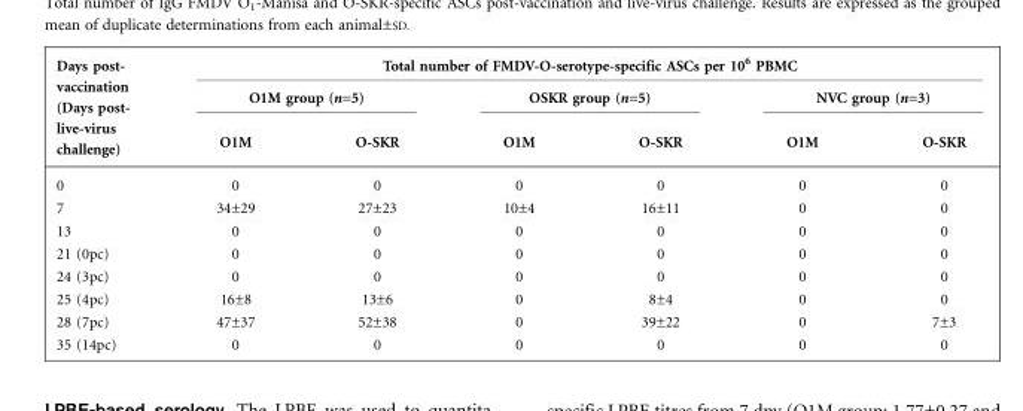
<table><thead><tr><td rowspan="3">Days post- vaccination (Days post- live-virus challenge)</td><td colspan="6">Total number of FMDV-O-serotype-specific ASCs per 10<sup>6</sup> PBMC</td></tr><tr><td colspan="2">O1M group (n=5)</td><td colspan="2">OSKR group (n=5)</td><td colspan="2">NVC group (n=3)</td></tr><tr><td>O1M</td><td>O-SKR</td><td>O1M</td><td>O-SKR</td><td>O1M</td><td>O-SKR</td></tr></thead><tbody><tr><td>0</td><td>0</td><td>0</td><td>0</td><td>0</td><td>0</td><td>0</td></tr><tr><td>7</td><td>34±29</td><td>27±23</td><td>10±4</td><td>16±11</td><td>0</td><td>0</td></tr><tr><td>13</td><td>0</td><td>0</td><td>0</td><td>0</td><td>0</td><td>0</td></tr><tr><td>21 (0pc)</td><td>0</td><td>0</td><td>0</td><td>0</td><td>0</td><td>0</td></tr><tr><td>24 (3pc)</td><td>0</td><td>0</td><td>0</td><td>0</td><td>0</td><td>0</td></tr><tr><td>25 (4pc)</td><td>16±8</td><td>13±6</td><td>0</td><td>8±4</td><td>0</td><td>0</td></tr><tr><td>28 (7pc)</td><td>47±37</td><td>52±38</td><td>0</td><td>39±22</td><td>0</td><td>7±3</td></tr><tr><td>35 (14pc)</td><td>0</td><td>0</td><td>0</td><td>0</td><td>0</td><td>0</td></tr></tbody></table>